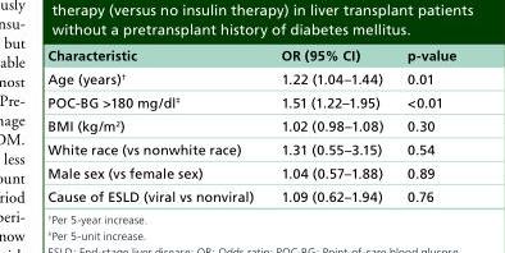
<table><thead><tr><td>Characteristic</td><td>OR (95% CI)</td><td>p-value</td></tr></thead><tbody><tr><td>Age (years)<sup>†</sup></td><td>1.22 (1.04–1.44)</td><td>0.01</td></tr><tr><td>POC-BG &gt;180 mg/dl<sup>‡</sup></td><td>1.51 (1.22–1.95)</td><td>&lt;0.01</td></tr><tr><td>BMI (kg/m<sup>2</sup>)</td><td>1.02 (0.98–1.08)</td><td>0.30</td></tr><tr><td>White race (vs nonwhite race)</td><td>1.31 (0.55–3.15)</td><td>0.54</td></tr><tr><td>Male sex (vs female sex)</td><td>1.04 (0.57–1.88)</td><td>0.89</td></tr><tr><td>Cause of ESLD (viral vs nonviral)</td><td>1.09 (0.62–1.94)</td><td>0.76</td></tr></tbody></table>